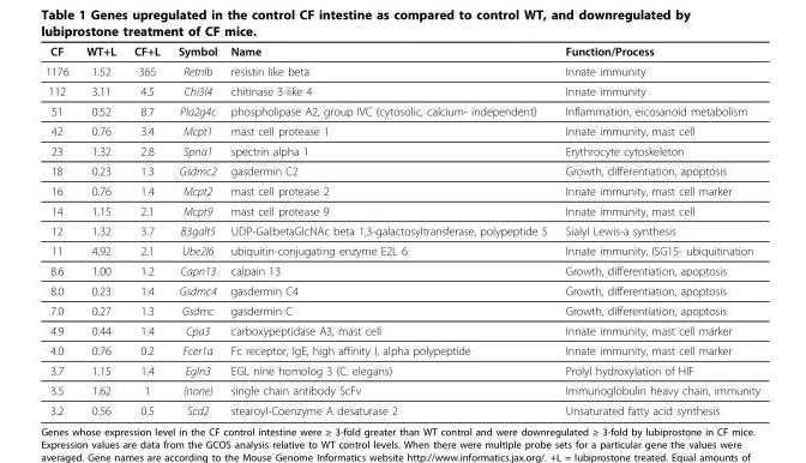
<table><thead><tr><td>CF</td><td>WT+L</td><td>CF+L</td><td>Symbol</td><td>Name</td><td>Function/Process</td></tr></thead><tbody><tr><td>1176</td><td>1.52</td><td>365</td><td>Retnlb</td><td>resistin like beta</td><td>Innate immunity</td></tr><tr><td>112</td><td>3.11</td><td>4.5</td><td>Chi3l4</td><td>chitinase 3-like 4</td><td>Innate immunity</td></tr><tr><td>51</td><td>0.52</td><td>8.7</td><td>Pla2g4c</td><td>phospholipase A2, group IVC (cytosolic, calcium- independent)</td><td>Inflammation, eicosanoid metabolism</td></tr><tr><td>42</td><td>0.76</td><td>3.4</td><td>Mcpt1</td><td>mast cell protease 1</td><td>Innate immunity, mast cell</td></tr><tr><td>23</td><td>1.32</td><td>2.8</td><td>Spna1</td><td>spectrin alpha 1</td><td>Erythrocyte cytoskeleton</td></tr><tr><td>18</td><td>0.23</td><td>1.3</td><td>Gsdmc2</td><td>gasdermin C2</td><td>Growth, differentiation, apoptosis</td></tr><tr><td>16</td><td>0.76</td><td>1.4</td><td>Mcpt2</td><td>mast cell protease 2</td><td>Innate immunity, mast cell marker</td></tr><tr><td>14</td><td>1.15</td><td>2.1</td><td>Mcpt9</td><td>mast cell protease 9</td><td>Innate immunity, mast cell</td></tr><tr><td>12</td><td>1.32</td><td>3.7</td><td>B3galt5</td><td>UDP-Gal:betaGlcNAc beta 1,3-galactosyltransferase, polypeptide 5</td><td>Sialyl Lewis-a synthesis</td></tr><tr><td>11</td><td>4.92</td><td>2.1</td><td>Ube2l6</td><td>ubiquitin-conjugating enzyme E2L 6</td><td>Innate immunity, ISG15- ubiquitination</td></tr><tr><td>8.6</td><td>1.00</td><td>1.2</td><td>Capn13</td><td>calpain 13</td><td>Growth, differentiation, apoptosis</td></tr><tr><td>8.0</td><td>0.23</td><td>1.4</td><td>Gsdmc4</td><td>gasdermin C4</td><td>Growth, differentiation, apoptosis</td></tr><tr><td>7.0</td><td>0.27</td><td>1.3</td><td>Gsdmc</td><td>gasdermin C</td><td>Growth, differentiation, apoptosis</td></tr><tr><td>4.9</td><td>0.44</td><td>1.4</td><td>Cpa3</td><td>carboxypeptidase A3, mast cell</td><td>Innate immunity, mast cell marker</td></tr><tr><td>4.0</td><td>0.76</td><td>0.2</td><td>Fcer1a</td><td>Fc receptor, IgE, high affinity I, alpha polypeptide</td><td>Innate immunity, mast cell marker</td></tr><tr><td>3.7</td><td>1.15</td><td>1.4</td><td>Egln3</td><td>EGL nine homolog 3 (C. elegans)</td><td>Prolyl hydroxylation of HIF</td></tr><tr><td>3.5</td><td>1.62</td><td>1</td><td>(none)</td><td>single chain antibody ScFv</td><td>Immunoglobulin heavy chain, immunity</td></tr><tr><td>3.2</td><td>0.56</td><td>0.5</td><td>Scd2</td><td>stearoyl-Coenzyme A desaturase 2</td><td>Unsaturated fatty acid synthesis</td></tr></tbody></table>